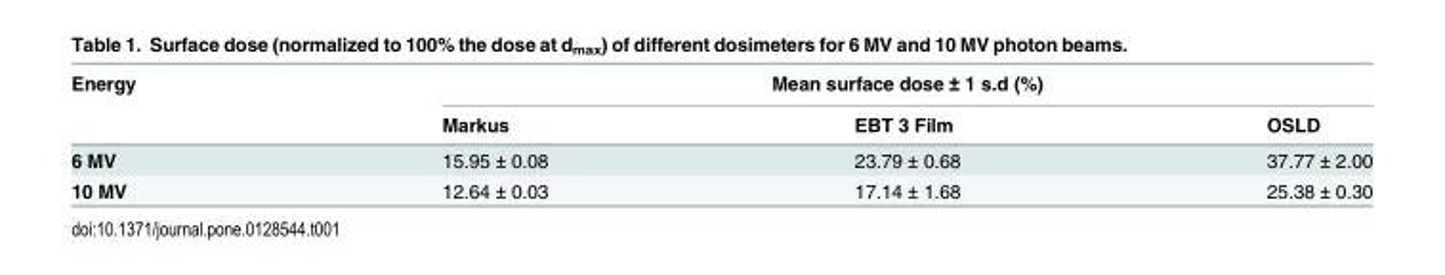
<table><thead><tr><td rowspan="2">Energy</td><td colspan="3">Mean surface dose ± 1 s.d (%)</td></tr><tr><td>Markus</td><td>EBT 3 Film</td><td>OSLD</td></tr></thead><tbody><tr><td>6 MV</td><td>15.95 ± 0.08</td><td>23.79 ± 0.68</td><td>37.77 ± 2.00</td></tr><tr><td>10 MV</td><td>12.64 ± 0.03</td><td>17.14 ± 1.68</td><td>25.38 ± 0.30</td></tr></tbody></table>